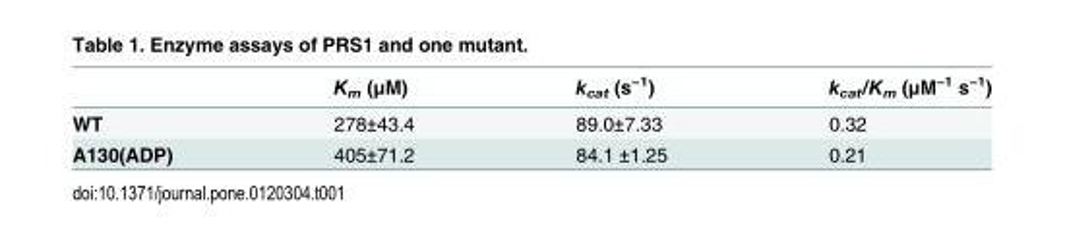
<table><thead><tr><td></td><td>K<sub>m</sub> (μM)</td><td>k<sub>cat</sub> (s<sup>−1</sup>)</td><td>k<sub>cat</sub>/K<sub>m</sub> (μM<sup>−1</sup> s<sup>−1</sup>)</td></tr></thead><tbody><tr><td>WT</td><td>278±43.4</td><td>89.0±7.33</td><td>0.32</td></tr><tr><td>A130(ADP)</td><td>405±71.2</td><td>84.1 ±1.25</td><td>0.21</td></tr></tbody></table>